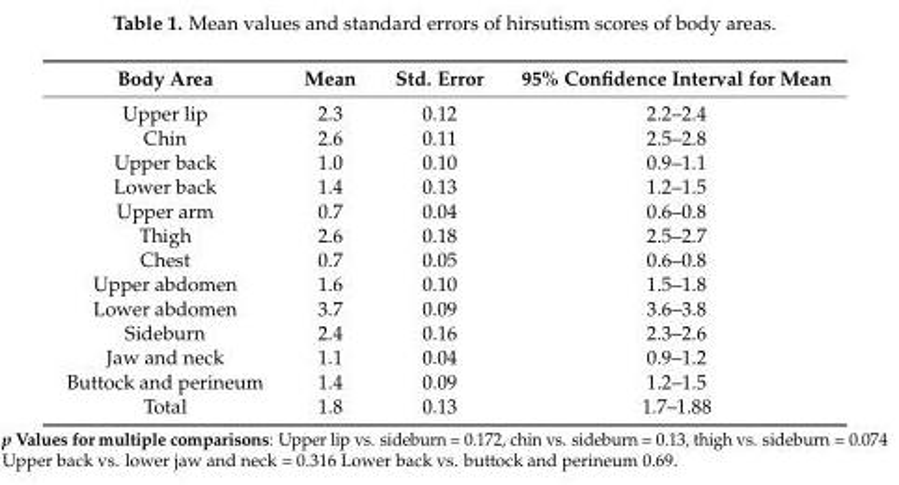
<table><thead><tr><td>Body Area</td><td>Mean</td><td>Std. Error</td><td>95% Confidence Interval for Mean</td></tr></thead><tbody><tr><td>Upper lip</td><td>2.3</td><td>0.12</td><td>2.2–2.4</td></tr><tr><td>Chin</td><td>2.6</td><td>0.11</td><td>2.5–2.8</td></tr><tr><td>Upper back</td><td>1.0</td><td>0.10</td><td>0.9–1.1</td></tr><tr><td>Lower back</td><td>1.4</td><td>0.13</td><td>1.2–1.5</td></tr><tr><td>Upper arm</td><td>0.7</td><td>0.04</td><td>0.6–0.8</td></tr><tr><td>Thigh</td><td>2.6</td><td>0.18</td><td>2.5–2.7</td></tr><tr><td>Chest</td><td>0.7</td><td>0.05</td><td>0.6–0.8</td></tr><tr><td>Upper abdomen</td><td>1.6</td><td>0.10</td><td>1.5–1.8</td></tr><tr><td>Lower abdomen</td><td>3.7</td><td>0.09</td><td>3.6–3.8</td></tr><tr><td>Sideburn</td><td>2.4</td><td>0.16</td><td>2.3–2.6</td></tr><tr><td>Jaw and neck</td><td>1.1</td><td>0.04</td><td>0.9–1.2</td></tr><tr><td>Buttock and perineum</td><td>1.4</td><td>0.09</td><td>1.2–1.5</td></tr><tr><td>Total</td><td>1.8</td><td>0.13</td><td>1.7–1.88</td></tr></tbody></table>